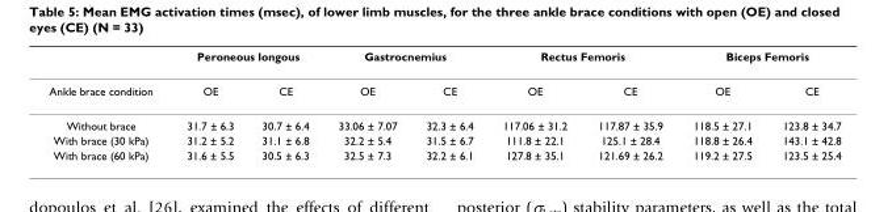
<table><thead><tr><td rowspan="2">Ankle brace condition</td><td colspan="2">Peroneous longous</td><td colspan="2">Gastrocnemius</td><td colspan="2">Rectus Femoris</td><td colspan="2">Biceps Femoris</td></tr><tr><td>OE</td><td>CE</td><td>OE</td><td>CE</td><td>OE</td><td>CE</td><td>OE</td><td>CE</td></tr></thead><tbody><tr><td>Without brace</td><td>31.7 ± 6.3</td><td>30.7 ± 6.4</td><td>33.06 ± 7.07</td><td>32.3 ± 6.4</td><td>117.06 ± 31.2</td><td>117.87 ± 35.9</td><td>118.5 ± 27.1</td><td>123.8 ± 34.7</td></tr><tr><td>With brace (30 kPa)</td><td>31.2 ± 5.2</td><td>31.1 ± 6.8</td><td>32.2 ± 5.4</td><td>31.5 ± 6.7</td><td>111.8 ± 22.1</td><td>125.1 ± 28.4</td><td>118.8 ± 26.4</td><td>143.1 ± 42.8</td></tr><tr><td>With brace (60 kPa)</td><td>31.6 ± 5.5</td><td>30.5 ± 6.3</td><td>32.5 ± 7.3</td><td>32.2 ± 6.1</td><td>127.8 ± 35.1</td><td>121.69 ± 26.2</td><td>119.2 ± 27.5</td><td>123.5 ± 25.4</td></tr></tbody></table>